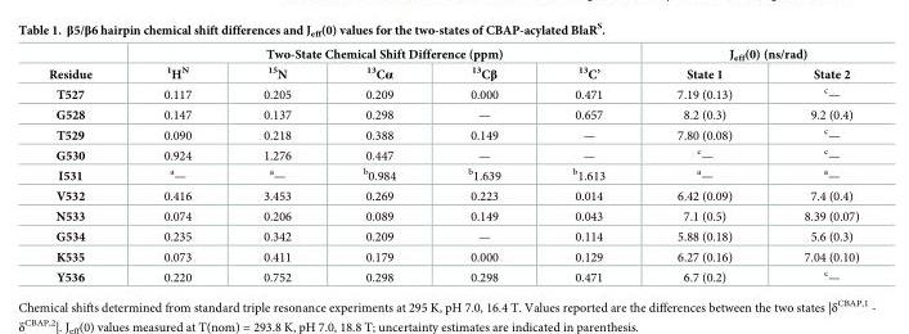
<table><thead><tr><td rowspan="2">Residue</td><td colspan="5">Two-State Chemical Shift Difference (ppm)</td><td colspan="2">J<sub>eff</sub>(0) (ns/rad)</td></tr><tr><td><sup>1</sup>H<sup>N</sup></td><td><sup>15</sup>N</td><td><sup>13</sup>Cα</td><td><sup>13</sup>Cβ</td><td><sup>13</sup>C’</td><td>State 1</td><td>State 2</td></tr></thead><tbody><tr><td>T527</td><td>0.117</td><td>0.205</td><td>0.209</td><td>0.000</td><td>0.471</td><td>7.19 (0.13)</td><td><sup>c</sup>—</td></tr><tr><td>G528</td><td>0.147</td><td>0.137</td><td>0.298</td><td>—</td><td>0.657</td><td>8.2 (0.3)</td><td>9.2 (0.4)</td></tr><tr><td>T529</td><td>0.090</td><td>0.218</td><td>0.388</td><td>0.149</td><td>—</td><td>7.80 (0.08)</td><td><sup>c</sup>—</td></tr><tr><td>G530</td><td>0.924</td><td>1.276</td><td>0.447</td><td>—</td><td>—</td><td><sup>c</sup>—</td><td><sup>c</sup>—</td></tr><tr><td>I531</td><td><sup>a</sup>—</td><td><sup>a</sup>—</td><td><sup>b</sup>0.984</td><td><sup>b</sup>1.639</td><td><sup>b</sup>1.613</td><td><sup>a</sup>—</td><td><sup>a</sup>—</td></tr><tr><td>V532</td><td>0.416</td><td>3.453</td><td>0.269</td><td>0.223</td><td>0.014</td><td>6.42 (0.09)</td><td>7.4 (0.4)</td></tr><tr><td>N533</td><td>0.074</td><td>0.206</td><td>0.089</td><td>0.149</td><td>0.043</td><td>7.1 (0.5)</td><td>8.39 (0.07)</td></tr><tr><td>G534</td><td>0.235</td><td>0.342</td><td>0.209</td><td>—</td><td>0.114</td><td>5.88 (0.18)</td><td>5.6 (0.3)</td></tr><tr><td>K535</td><td>0.073</td><td>0.411</td><td>0.179</td><td>0.000</td><td>0.129</td><td>6.27 (0.16)</td><td>7.04 (0.10)</td></tr><tr><td>Y536</td><td>0.220</td><td>0.752</td><td>0.298</td><td>0.298</td><td>0.471</td><td>6.7 (0.2)</td><td><sup>c</sup>—</td></tr></tbody></table>